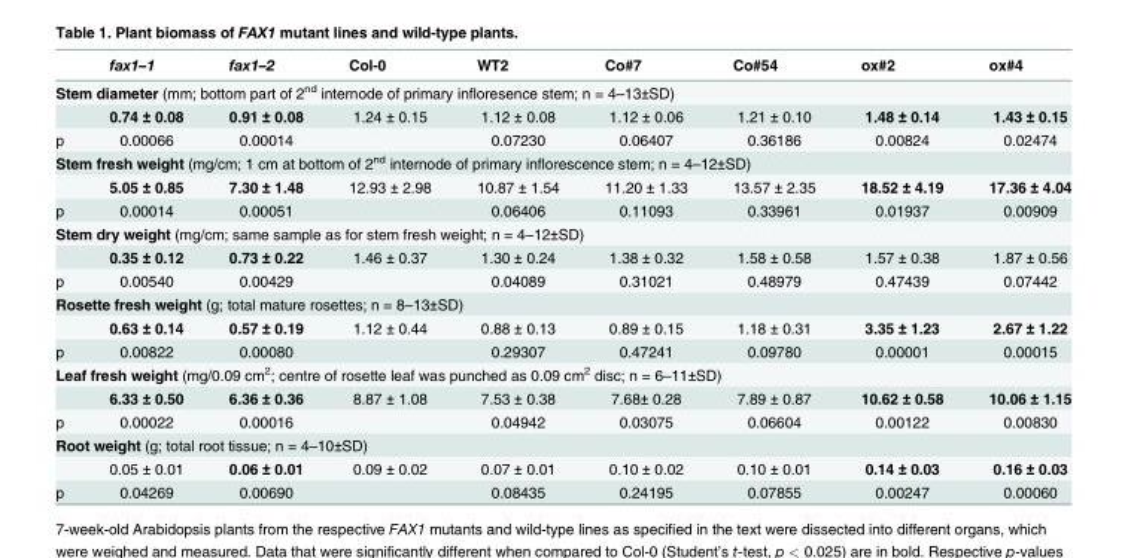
<table><thead><tr><td></td><td>fax1–1</td><td>fax1–2</td><td>Col-0</td><td>WT2</td><td>Co#7</td><td>Co#54</td><td>ox#2</td><td>ox#4</td></tr></thead><tbody><tr><td colspan="9">Stem diameter (mm; bottom part of 2<sup>nd</sup> internode of primary infloresence stem; n = 4–13±SD)</td></tr><tr><td></td><td>0.74 ± 0.08</td><td>0.91 ± 0.08</td><td>1.24 ± 0.15</td><td>1.12 ± 0.08</td><td>1.12 ± 0.06</td><td>1.21 ± 0.10</td><td>1.48 ± 0.14</td><td>1.43 ± 0.15</td></tr><tr><td>p</td><td>0.00066</td><td>0.00014</td><td></td><td>0.07230</td><td>0.06407</td><td>0.36186</td><td>0.00824</td><td>0.02474</td></tr><tr><td colspan="9">Stem fresh weight (mg/cm; 1 cm at bottom of 2<sup>nd</sup> internode of primary inflorescence stem; n = 4–12±SD)</td></tr><tr><td></td><td>5.05 ± 0.85</td><td>7.30 ± 1.48</td><td>12.93 ± 2.98</td><td>10.87 ± 1.54</td><td>11.20 ± 1.33</td><td>13.57 ± 2.35</td><td>18.52 ± 4.19</td><td>17.36 ± 4.04</td></tr><tr><td>p</td><td>0.00014</td><td>0.00051</td><td></td><td>0.06406</td><td>0.11093</td><td>0.33961</td><td>0.01937</td><td>0.00909</td></tr><tr><td colspan="9">Stem dry weight (mg/cm; same sample as for stem fresh weight; n = 4–12±SD)</td></tr><tr><td></td><td>0.35 ± 0.12</td><td>0.73 ± 0.22</td><td>1.46 ± 0.37</td><td>1.30 ± 0.24</td><td>1.38 ± 0.32</td><td>1.58 ± 0.58</td><td>1.57 ± 0.38</td><td>1.87 ± 0.56</td></tr><tr><td>p</td><td>0.00540</td><td>0.00429</td><td></td><td>0.04089</td><td>0.31021</td><td>0.48979</td><td>0.47439</td><td>0.07442</td></tr><tr><td colspan="9">Rosette fresh weight (g; total mature rosettes; n = 8–13±SD)</td></tr><tr><td></td><td>0.63 ± 0.14</td><td>0.57 ± 0.19</td><td>1.12 ± 0.44</td><td>0.88 ± 0.13</td><td>0.89 ± 0.15</td><td>1.18 ± 0.31</td><td>3.35 ± 1.23</td><td>2.67 ± 1.22</td></tr><tr><td>p</td><td>0.00822</td><td>0.00080</td><td></td><td>0.29307</td><td>0.47241</td><td>0.09780</td><td>0.00001</td><td>0.00015</td></tr><tr><td colspan="9">Leaf fresh weight (mg/0.09 cm<sup>2</sup>; centre of rosette leaf was punched as 0.09 cm<sup>2</sup> disc; n = 6–11±SD)</td></tr><tr><td></td><td>6.33 ± 0.50</td><td>6.36 ± 0.36</td><td>8.87 ± 1.08</td><td>7.53 ± 0.38</td><td>7.68± 0.28</td><td>7.89 ± 0.87</td><td>10.62 ± 0.58</td><td>10.06 ± 1.15</td></tr><tr><td>p</td><td>0.00022</td><td>0.00016</td><td></td><td>0.04942</td><td>0.03075</td><td>0.06604</td><td>0.00122</td><td>0.00830</td></tr><tr><td colspan="9">Root weight (g; total root tissue; n = 4–10±SD)</td></tr><tr><td></td><td>0.05 ± 0.01</td><td>0.06 ± 0.01</td><td>0.09 ± 0.02</td><td>0.07 ± 0.01</td><td>0.10 ± 0.02</td><td>0.10 ± 0.01</td><td>0.14 ± 0.03</td><td>0.16 ± 0.03</td></tr><tr><td>p</td><td>0.04269</td><td>0.00690</td><td></td><td>0.08435</td><td>0.24195</td><td>0.07855</td><td>0.00247</td><td>0.00060</td></tr></tbody></table>